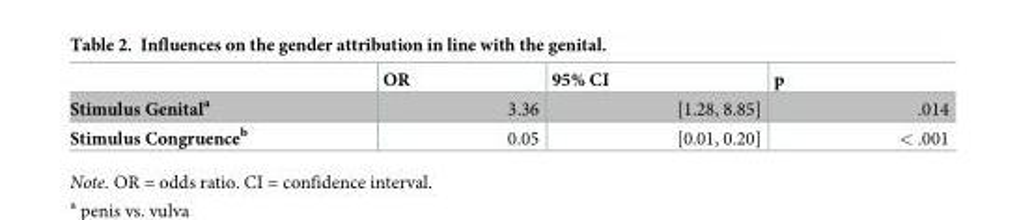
<table><thead><tr><td></td><td>OR</td><td>95% CI</td><td>p</td></tr></thead><tbody><tr><td>Stimulus Genital<sup>a</sup></td><td>3.36</td><td>[1.28, 8.85]</td><td>.014</td></tr><tr><td>Stimulus Congruence<sup>b</sup></td><td>0.05</td><td>[0.01, 0.20]</td><td>&lt; .001</td></tr></tbody></table>